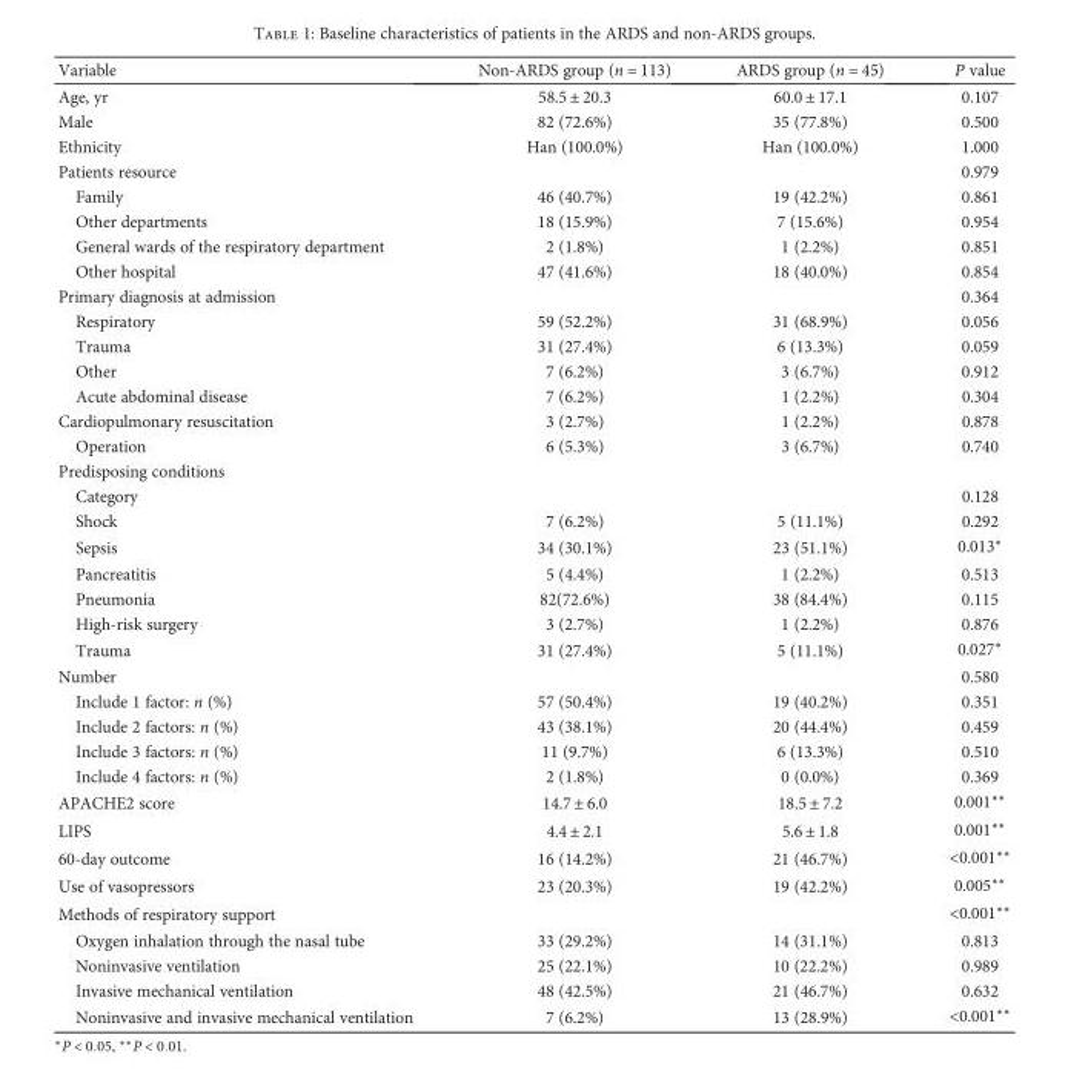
<table><thead><tr><td>Variable</td><td>Non-ARDS group (n = 113)</td><td>ARDS group (n = 45)</td><td>P value</td></tr></thead><tbody><tr><td>Age, yr</td><td>58.5 ± 20.3</td><td>60.0 ± 17.1</td><td>0.107</td></tr><tr><td>Male</td><td>82 (72.6%)</td><td>35 (77.8%)</td><td>0.500</td></tr><tr><td>Ethnicity</td><td>Han (100.0%)</td><td>Han (100.0%)</td><td>1.000</td></tr><tr><td>Patients resource</td><td></td><td></td><td>0.979</td></tr><tr><td>Family</td><td>46 (40.7%)</td><td>19 (42.2%)</td><td>0.861</td></tr><tr><td>Other departments</td><td>18 (15.9%)</td><td>7 (15.6%)</td><td>0.954</td></tr><tr><td>General wards of the respiratory department</td><td>2 (1.8%)</td><td>1 (2.2%)</td><td>0.851</td></tr><tr><td>Other hospital</td><td>47 (41.6%)</td><td>18 (40.0%)</td><td>0.854</td></tr><tr><td>Primary diagnosis at admission</td><td></td><td></td><td>0.364</td></tr><tr><td>Respiratory</td><td>59 (52.2%)</td><td>31 (68.9%)</td><td>0.056</td></tr><tr><td>Trauma</td><td>31 (27.4%)</td><td>6 (13.3%)</td><td>0.059</td></tr><tr><td>Other</td><td>7 (6.2%)</td><td>3 (6.7%)</td><td>0.912</td></tr><tr><td>Acute abdominal disease</td><td>7 (6.2%)</td><td>1 (2.2%)</td><td>0.304</td></tr><tr><td>Cardiopulmonary resuscitation</td><td>3 (2.7%)</td><td>1 (2.2%)</td><td>0.878</td></tr><tr><td>Operation</td><td>6 (5.3%)</td><td>3 (6.7%)</td><td>0.740</td></tr><tr><td colspan="4">Predisposing conditions</td></tr><tr><td>Category</td><td></td><td></td><td>0.128</td></tr><tr><td>Shock</td><td>7 (6.2%)</td><td>5 (11.1%)</td><td>0.292</td></tr><tr><td>Sepsis</td><td>34 (30.1%)</td><td>23 (51.1%)</td><td>0.013∗</td></tr><tr><td>Pancreatitis</td><td>5 (4.4%)</td><td>1 (2.2%)</td><td>0.513</td></tr><tr><td>Pneumonia</td><td>82(72.6%)</td><td>38 (84.4%)</td><td>0.115</td></tr><tr><td>High-risk surgery</td><td>3 (2.7%)</td><td>1 (2.2%)</td><td>0.876</td></tr><tr><td>Trauma</td><td>31 (27.4%)</td><td>5 (11.1%)</td><td>0.027∗</td></tr><tr><td>Number</td><td></td><td></td><td>0.580</td></tr><tr><td>Include 1 factor: n (%)</td><td>57 (50.4%)</td><td>19 (40.2%)</td><td>0.351</td></tr><tr><td>Include 2 factors: n (%)</td><td>43 (38.1%)</td><td>20 (44.4%)</td><td>0.459</td></tr><tr><td>Include 3 factors: n (%)</td><td>11 (9.7%)</td><td>6 (13.3%)</td><td>0.510</td></tr><tr><td>Include 4 factors: n (%)</td><td>2 (1.8%)</td><td>0 (0.0%)</td><td>0.369</td></tr><tr><td>APACHE2 score</td><td>14.7 ± 6.0</td><td>18.5 ± 7.2</td><td>0.001∗∗</td></tr><tr><td>LIPS</td><td>4.4 ± 2.1</td><td>5.6 ± 1.8</td><td>0.001∗∗</td></tr><tr><td>60-day outcome</td><td>16 (14.2%)</td><td>21 (46.7%)</td><td>&lt;0.001∗∗</td></tr><tr><td>Use of vasopressors</td><td>23 (20.3%)</td><td>19 (42.2%)</td><td>0.005∗∗</td></tr><tr><td>Methods of respiratory support</td><td></td><td></td><td>&lt;0.001∗∗</td></tr><tr><td>Oxygen inhalation through the nasal tube</td><td>33 (29.2%)</td><td>14 (31.1%)</td><td>0.813</td></tr><tr><td>Noninvasive ventilation</td><td>25 (22.1%)</td><td>10 (22.2%)</td><td>0.989</td></tr><tr><td>Invasive mechanical ventilation</td><td>48 (42.5%)</td><td>21 (46.7%)</td><td>0.632</td></tr><tr><td>Noninvasive and invasive mechanical ventilation</td><td>7 (6.2%)</td><td>13 (28.9%)</td><td>&lt;0.001∗∗</td></tr></tbody></table>